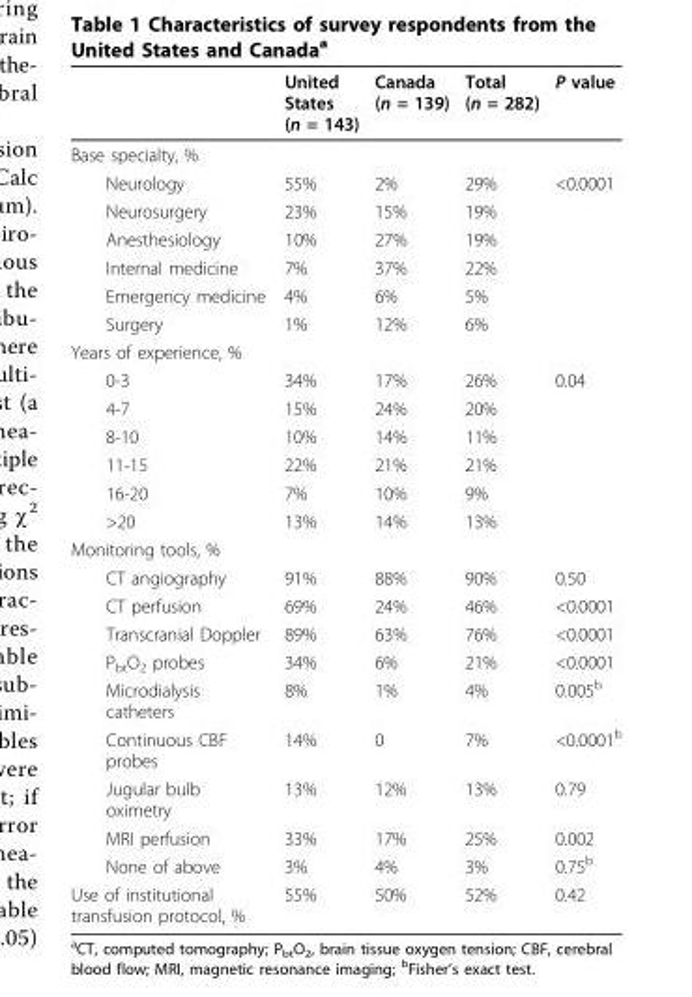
<table><thead><tr><td></td><td>United States (n = 143)</td><td>Canada (n = 139)</td><td>Total (n = 282)</td><td>P value</td></tr></thead><tbody><tr><td colspan="5">Base specialty, %</td></tr><tr><td>Neurology</td><td>55%</td><td>2%</td><td>29%</td><td>&lt;0.0001</td></tr><tr><td>Neurosurgery</td><td>23%</td><td>15%</td><td>19%</td><td></td></tr><tr><td>Anesthesiology</td><td>10%</td><td>27%</td><td>19%</td><td></td></tr><tr><td>Internal medicine</td><td>7%</td><td>37%</td><td>22%</td><td></td></tr><tr><td>Emergency medicine</td><td>4%</td><td>6%</td><td>5%</td><td></td></tr><tr><td>Surgery</td><td>1%</td><td>12%</td><td>6%</td><td></td></tr><tr><td colspan="5">Years of experience, %</td></tr><tr><td>0-3</td><td>34%</td><td>17%</td><td>26%</td><td>0.04</td></tr><tr><td>4-7</td><td>15%</td><td>24%</td><td>20%</td><td></td></tr><tr><td>8-10</td><td>10%</td><td>14%</td><td>11%</td><td></td></tr><tr><td>11-15</td><td>22%</td><td>21%</td><td>21%</td><td></td></tr><tr><td>16-20</td><td>7%</td><td>10%</td><td>9%</td><td></td></tr><tr><td>&gt;20</td><td>13%</td><td>14%</td><td>13%</td><td></td></tr><tr><td colspan="5">Monitoring tools, %</td></tr><tr><td>CT angiography</td><td>91%</td><td>88%</td><td>90%</td><td>0.50</td></tr><tr><td>CT perfusion</td><td>69%</td><td>24%</td><td>46%</td><td>&lt;0.0001</td></tr><tr><td>Transcranial Doppler</td><td>89%</td><td>63%</td><td>76%</td><td>&lt;0.0001</td></tr><tr><td>P<sub>bt</sub>O<sub>2</sub> probes</td><td>34%</td><td>6%</td><td>21%</td><td>&lt;0.0001</td></tr><tr><td>Microdialysis catheters</td><td>8%</td><td>1%</td><td>4%</td><td>0.005<sup>b</sup></td></tr><tr><td>Continuous CBF probes</td><td>14%</td><td>0</td><td>7%</td><td>&lt;0.0001<sup>b</sup></td></tr><tr><td>Jugular bulb oximetry</td><td>13%</td><td>12%</td><td>13%</td><td>0.79</td></tr><tr><td>MRI perfusion</td><td>33%</td><td>17%</td><td>25%</td><td>0.002</td></tr><tr><td>None of above</td><td>3%</td><td>4%</td><td>3%</td><td>0.75<sup>b</sup></td></tr><tr><td>Use of institutional transfusion protocol, %</td><td>55%</td><td>50%</td><td>52%</td><td>0.42</td></tr></tbody></table>